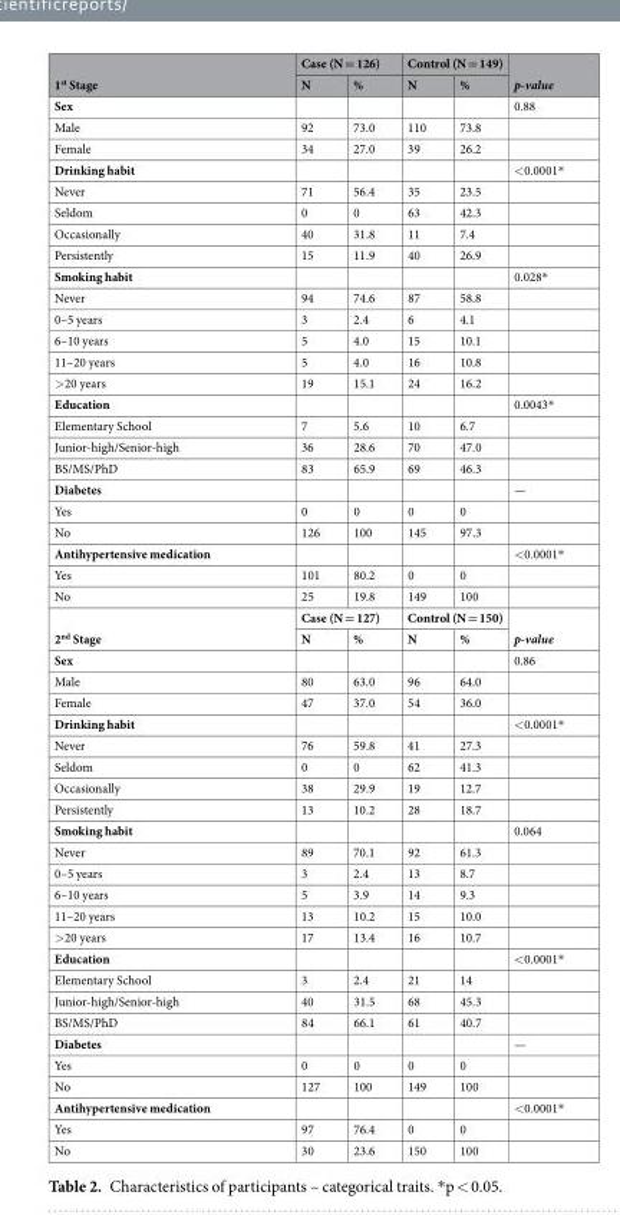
<table><thead><tr><td rowspan="2">1<sup>st</sup> Stage</td><td colspan="2">Case (N = 126)</td><td colspan="2">Control (N = 149)</td><td rowspan="2">p-value</td></tr><tr><td>N</td><td>%</td><td>N</td><td>%</td></tr></thead><tbody><tr><td>Sex</td><td></td><td></td><td></td><td></td><td>0.88</td></tr><tr><td>Male</td><td>92</td><td>73.0</td><td>110</td><td>73.8</td><td></td></tr><tr><td>Female</td><td>34</td><td>27.0</td><td>39</td><td>26.2</td><td></td></tr><tr><td>Drinking habit</td><td></td><td></td><td></td><td></td><td>&lt;0.0001*</td></tr><tr><td>Never</td><td>71</td><td>56.4</td><td>35</td><td>23.5</td><td></td></tr><tr><td>Seldom</td><td>0</td><td>0</td><td>63</td><td>42.3</td><td></td></tr><tr><td>Occasionally</td><td>40</td><td>31.8</td><td>11</td><td>7.4</td><td></td></tr><tr><td>Persistently</td><td>15</td><td>11.9</td><td>40</td><td>26.9</td><td></td></tr><tr><td>Smoking habit</td><td></td><td></td><td></td><td></td><td>0.028*</td></tr><tr><td>Never</td><td>94</td><td>74.6</td><td>87</td><td>58.8</td><td></td></tr><tr><td>0–5 years</td><td>3</td><td>2.4</td><td>6</td><td>4.1</td><td></td></tr><tr><td>6–10 years</td><td>5</td><td>4.0</td><td>15</td><td>10.1</td><td></td></tr><tr><td>11–20 years</td><td>5</td><td>4.0</td><td>16</td><td>10.8</td><td></td></tr><tr><td>&gt;20 years</td><td>19</td><td>15.1</td><td>24</td><td>16.2</td><td></td></tr><tr><td>Education</td><td></td><td></td><td></td><td></td><td>0.0043*</td></tr><tr><td>Elementary School</td><td>7</td><td>5.6</td><td>10</td><td>6.7</td><td></td></tr><tr><td>Junior-high/Senior-high</td><td>36</td><td>28.6</td><td>70</td><td>47.0</td><td></td></tr><tr><td>BS/MS/PhD</td><td>83</td><td>65.9</td><td>69</td><td>46.3</td><td></td></tr><tr><td>Diabetes</td><td></td><td></td><td></td><td></td><td>—</td></tr><tr><td>Yes</td><td>0</td><td>0</td><td>0</td><td>0</td><td></td></tr><tr><td>No</td><td>126</td><td>100</td><td>145</td><td>97.3</td><td></td></tr><tr><td>Antihypertensive medication</td><td></td><td></td><td></td><td></td><td>&lt;0.0001*</td></tr><tr><td>Yes</td><td>101</td><td>80.2</td><td>0</td><td>0</td><td></td></tr><tr><td>No</td><td>25</td><td>19.8</td><td>149</td><td>100</td><td></td></tr><tr><td rowspan="2">2<sup>nd</sup> Stage</td><td colspan="2">Case (N = 127)</td><td colspan="2">Control (N = 150)</td><td rowspan="2">p-value</td></tr><tr><td>N</td><td>%</td><td>N</td><td>%</td></tr><tr><td>Sex</td><td></td><td></td><td></td><td></td><td>0.86</td></tr><tr><td>Male</td><td>80</td><td>63.0</td><td>96</td><td>64.0</td><td></td></tr><tr><td>Female</td><td>47</td><td>37.0</td><td>54</td><td>36.0</td><td></td></tr><tr><td>Drinking habit</td><td></td><td></td><td></td><td></td><td>&lt;0.0001*</td></tr><tr><td>Never</td><td>76</td><td>59.8</td><td>41</td><td>27.3</td><td></td></tr><tr><td>Seldom</td><td>0</td><td>0</td><td>62</td><td>41.3</td><td></td></tr><tr><td>Occasionally</td><td>38</td><td>29.9</td><td>19</td><td>12.7</td><td></td></tr><tr><td>Persistently</td><td>13</td><td>10.2</td><td>28</td><td>18.7</td><td></td></tr><tr><td>Smoking habit</td><td></td><td></td><td></td><td></td><td>0.064</td></tr><tr><td>Never</td><td>89</td><td>70.1</td><td>92</td><td>61.3</td><td></td></tr><tr><td>0–5 years</td><td>3</td><td>2.4</td><td>13</td><td>8.7</td><td></td></tr><tr><td>6–10 years</td><td>5</td><td>3.9</td><td>14</td><td>9.3</td><td></td></tr><tr><td>11–20 years</td><td>13</td><td>10.2</td><td>15</td><td>10.0</td><td></td></tr><tr><td>&gt;20 years</td><td>17</td><td>13.4</td><td>16</td><td>10.7</td><td></td></tr><tr><td>Education</td><td></td><td></td><td></td><td></td><td>&lt;0.0001*</td></tr><tr><td>Elementary School</td><td>3</td><td>2.4</td><td>21</td><td>14</td><td></td></tr><tr><td>Junior-high/Senior-high</td><td>40</td><td>31.5</td><td>68</td><td>45.3</td><td></td></tr><tr><td>BS/MS/PhD</td><td>84</td><td>66.1</td><td>61</td><td>40.7</td><td></td></tr><tr><td>Diabetes</td><td></td><td></td><td></td><td></td><td>—</td></tr><tr><td>Yes</td><td>0</td><td>0</td><td>0</td><td>0</td><td></td></tr><tr><td>No</td><td>127</td><td>100</td><td>149</td><td>100</td><td></td></tr><tr><td>Antihypertensive medication</td><td></td><td></td><td></td><td></td><td>&lt;0.0001*</td></tr><tr><td>Yes</td><td>97</td><td>76.4</td><td>0</td><td>0</td><td></td></tr><tr><td>No</td><td>30</td><td>23.6</td><td>150</td><td>100</td><td></td></tr></tbody></table>